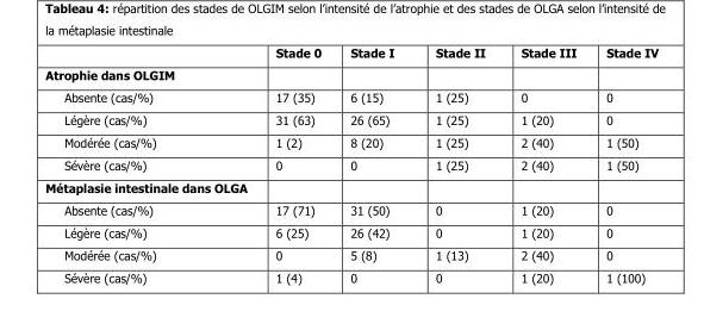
<table><thead><tr><td></td><td>Stade 0</td><td>Stade I</td><td>Stade II</td><td>Stade III</td><td>Stade IV</td></tr></thead><tbody><tr><td colspan="6">Atrophie dans OLGIM</td></tr><tr><td>Absente (cas/%)</td><td>17 (35)</td><td>6 (15)</td><td>1 (25)</td><td>0</td><td>0</td></tr><tr><td>Légère (cas/%)</td><td>31 (63)</td><td>26 (65)</td><td>1 (25)</td><td>1 (20)</td><td>0</td></tr><tr><td>Modérée (cas/%)</td><td>1 (2)</td><td>8 (20)</td><td>1 (25)</td><td>2 (40)</td><td>1 (50)</td></tr><tr><td>Sévère (cas/%)</td><td>0</td><td>0</td><td>1 (25)</td><td>2 (40)</td><td>1 (50)</td></tr><tr><td colspan="6">Métaplasie intestinale dans OLGA</td></tr><tr><td>Absente (cas/%)</td><td>17 (71)</td><td>31 (50)</td><td>0</td><td>1 (20)</td><td>0</td></tr><tr><td>Légère (cas/%)</td><td>6 (25)</td><td>26 (42)</td><td>0</td><td>1 (20)</td><td>0</td></tr><tr><td>Modérée (cas/%)</td><td>0</td><td>5 (8)</td><td>1 (13)</td><td>2 (40)</td><td>0</td></tr><tr><td>Sévère (cas/%)</td><td>1 (4)</td><td>0</td><td>0</td><td>1 (20)</td><td>1 (100)</td></tr></tbody></table>